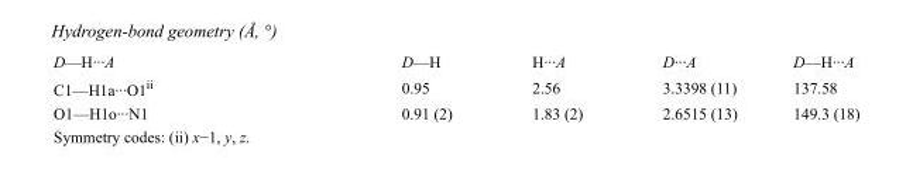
<table><tbody><tr><td>D—H···A</td><td>D—H</td><td>H···A</td><td>D···A</td><td>D—H···A</td></tr><tr><td>C1—H1a···O1<sup>ii</sup></td><td>0.95</td><td>2.56</td><td>3.3398 (11)</td><td>137.58</td></tr><tr><td>O1—H1o···N1</td><td>0.91 (2)</td><td>1.83 (2)</td><td>2.6515 (13)</td><td>149.3 (18)</td></tr></tbody></table>